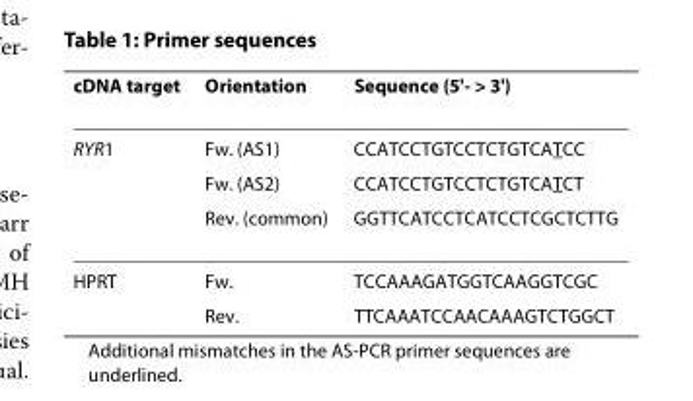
<table><thead><tr><td>cDNA target</td><td>Orientation</td><td>Sequence (5&#x27;- &gt; 3&#x27;)</td></tr></thead><tbody><tr><td rowspan="3">RYR1</td><td>Fw. (AS1)</td><td>CCATCCTGTCCTCTGTCATCC</td></tr><tr><td>Fw. (AS2)</td><td>CCATCCTGTCCTCTGTCATCT</td></tr><tr><td>Rev. (common)</td><td>GGTTCATCCTCATCCTCGCTCTTG</td></tr><tr><td rowspan="2">HPRT</td><td>Fw.</td><td>TCCAAAGATGGTCAAGGTCGC</td></tr><tr><td>Rev.</td><td>TTCAAATCCAACAAAGTCTGGCT</td></tr></tbody></table>